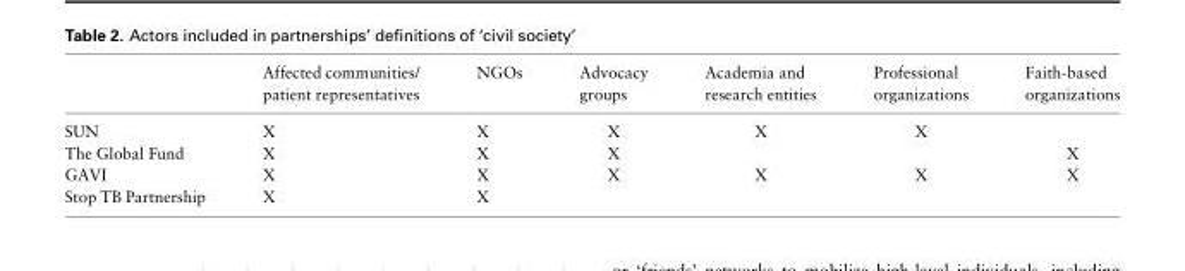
<table><thead><tr><td></td><td>Affected communities/ patient representatives</td><td>NGOs</td><td>Advocacy groups</td><td>Academia and research entities</td><td>Professional organizations</td><td>Faith-based organizations</td></tr></thead><tbody><tr><td>SUN</td><td>X</td><td>X</td><td>X</td><td>X</td><td>X</td><td></td></tr><tr><td>The Global Fund</td><td>X</td><td>X</td><td>X</td><td></td><td></td><td>X</td></tr><tr><td>GAVI</td><td>X</td><td>X</td><td>X</td><td>X</td><td>X</td><td>X</td></tr><tr><td>Stop TB Partnership</td><td>X</td><td>X</td><td></td><td></td><td></td><td></td></tr></tbody></table>